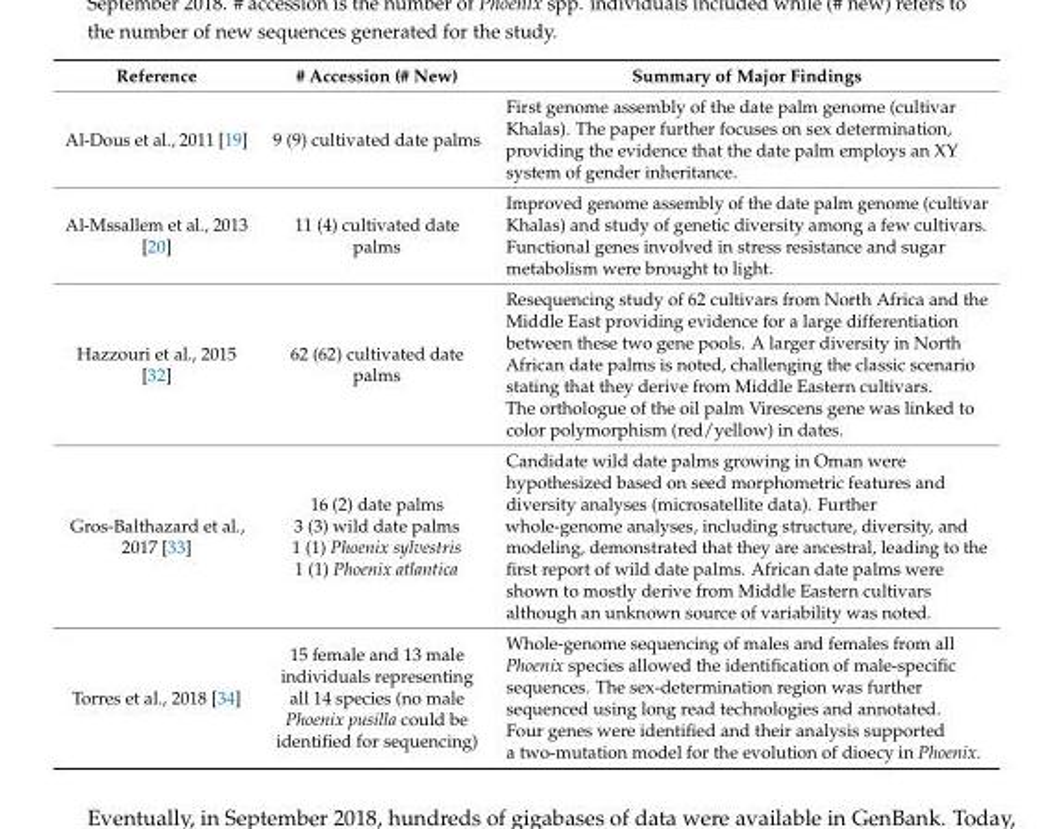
<table><thead><tr><td>Reference</td><td># Accession (# New)</td><td>Summary of Major Findings</td></tr></thead><tbody><tr><td>Al-Dous et al., 2011 [19]</td><td>9 (9) cultivated date palms</td><td>First genome assembly of the date palm genome (cultivar Khalas). The paper further focuses on sex determination, providing the evidence that the date palm employs an XY system of gender inheritance.</td></tr><tr><td>Al-Mssallem et al., 2013 [20]</td><td>11 (4) cultivated date palms</td><td>Improved genome assembly of the date palm genome (cultivar Khalas) and study of genetic diversity among a few cultivars. Functional genes involved in stress resistance and sugar metabolism were brought to light.</td></tr><tr><td>Hazzouri et al., 2015 [32]</td><td>62 (62) cultivated date palms</td><td>Resequencing study of 62 cultivars from North Africa and the Middle East providing evidence for a large differentiation between these two gene pools. A larger diversity in North African date palms is noted, challenging the classic scenario stating that they derive from Middle Eastern cultivars. The orthologue of the oil palm Virescens gene was linked to color polymorphism (red/yellow) in dates.</td></tr><tr><td>Gros-Balthazard et al., 2017 [33]</td><td>16 (2) date palms 3 (3) wild date palms 1 (1) Phoenix sylvestris 1 (1) Phoenix atlantica</td><td>Candidate wild date palms growing in Oman were hypothesized based on seed morphometric features and diversity analyses (microsatellite data). Further whole-genome analyses, including structure, diversity, and modeling, demonstrated that they are ancestral, leading to the first report of wild date palms. African date palms were shown to mostly derive from Middle Eastern cultivars although an unknown source of variability was noted.</td></tr><tr><td>Torres et al., 2018 [34]</td><td>15 female and 13 male individuals representing all 14 species (no male Phoenix pusilla could be identified for sequencing)</td><td>Whole-genome sequencing of males and females from all Phoenix species allowed the identification of male-specific sequences. The sex-determination region was further sequenced using long read technologies and annotated. Four genes were identified and their analysis supported a two-mutation model for the evolution of dioecy in Phoenix.</td></tr></tbody></table>